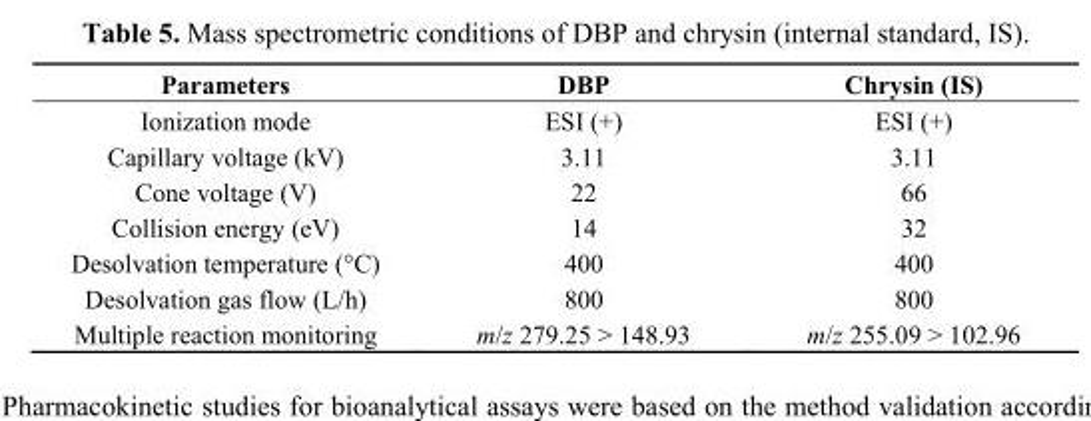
<table><thead><tr><td>Parameters</td><td>DBP</td><td>Chrysin (IS)</td></tr></thead><tbody><tr><td>Ionization mode</td><td>ESI (+)</td><td>ESI (+)</td></tr><tr><td>Capillary voltage (kV)</td><td>3.11</td><td>3.11</td></tr><tr><td>Cone voltage (V)</td><td>22</td><td>66</td></tr><tr><td>Collision energy (eV)</td><td>14</td><td>32</td></tr><tr><td>Desolvation temperature (°C)</td><td>400</td><td>400</td></tr><tr><td>Desolvation gas flow (L/h)</td><td>800</td><td>800</td></tr><tr><td>Multiple reaction monitoring</td><td>m/z 279.25 &gt; 148.93</td><td>m/z 255.09 &gt; 102.96</td></tr></tbody></table>